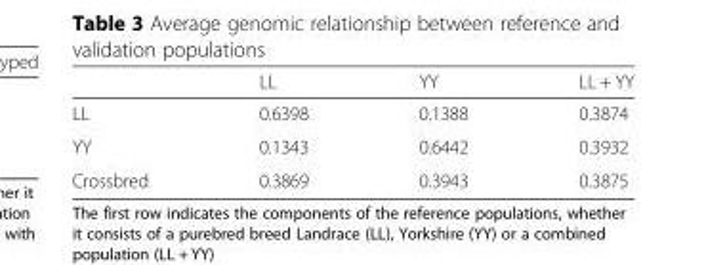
<table><thead><tr><td></td><td>LL</td><td>YY</td><td>LL + YY</td></tr></thead><tbody><tr><td>LL</td><td>0.6398</td><td>0.1388</td><td>0.3874</td></tr><tr><td>YY</td><td>0.1343</td><td>0.6442</td><td>0.3932</td></tr><tr><td>Crossbred</td><td>0.3869</td><td>0.3943</td><td>0.3875</td></tr></tbody></table>